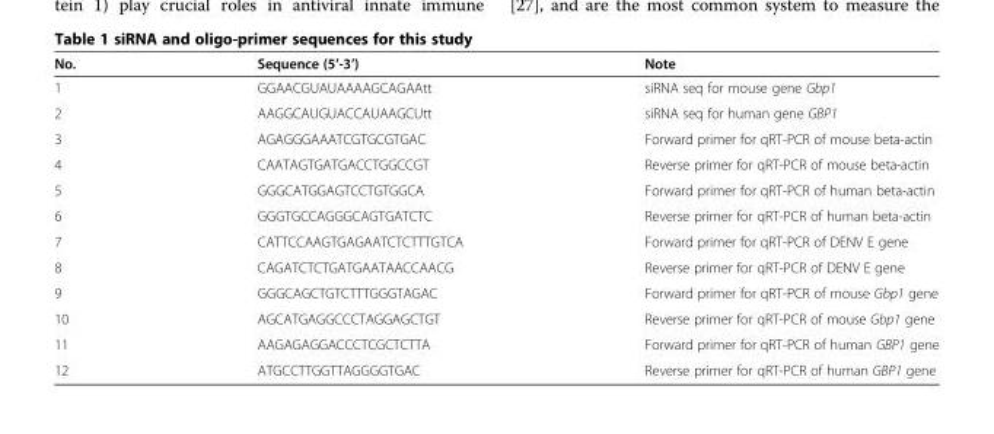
<table><thead><tr><td>No.</td><td>Sequence (5’-3’)</td><td>Note</td></tr></thead><tbody><tr><td>1</td><td>GGAACGUAUAAAAGCAGAAtt</td><td>siRNA seq for mouse gene Gbp1</td></tr><tr><td>2</td><td>AAGGCAUGUACCAUAAGCUtt</td><td>siRNA seq for human gene GBP1</td></tr><tr><td>3</td><td>AGAGGGAAATCGTGCGTGAC</td><td>Forward primer for qRT-PCR of mouse beta-actin</td></tr><tr><td>4</td><td>CAATAGTGATGACCTGGCCGT</td><td>Reverse primer for qRT-PCR of mouse beta-actin</td></tr><tr><td>5</td><td>GGGCATGGAGTCCTGTGGCA</td><td>Forward primer for qRT-PCR of human beta-actin</td></tr><tr><td>6</td><td>GGGTGCCAGGGCAGTGATCTC</td><td>Reverse primer for qRT-PCR of human beta-actin</td></tr><tr><td>7</td><td>CATTCCAAGTGAGAATCTCTTTGTCA</td><td>Forward primer for qRT-PCR of DENV E gene</td></tr><tr><td>8</td><td>CAGATCTCTGATGAATAACCAACG</td><td>Reverse primer for qRT-PCR of DENV E gene</td></tr><tr><td>9</td><td>GGGCAGCTGTCTTTGGGTAGAC</td><td>Forward primer for qRT-PCR of mouse Gbp1 gene</td></tr><tr><td>10</td><td>AGCATGAGGCCCTAGGAGCTGT</td><td>Reverse primer for qRT-PCR of mouse Gbp1 gene</td></tr><tr><td>11</td><td>AAGAGAGGACCCTCGCTCTTA</td><td>Forward primer for qRT-PCR of human GBP1 gene</td></tr><tr><td>12</td><td>ATGCCTTGGTTAGGGGTGAC</td><td>Reverse primer for qRT-PCR of human GBP1 gene</td></tr></tbody></table>